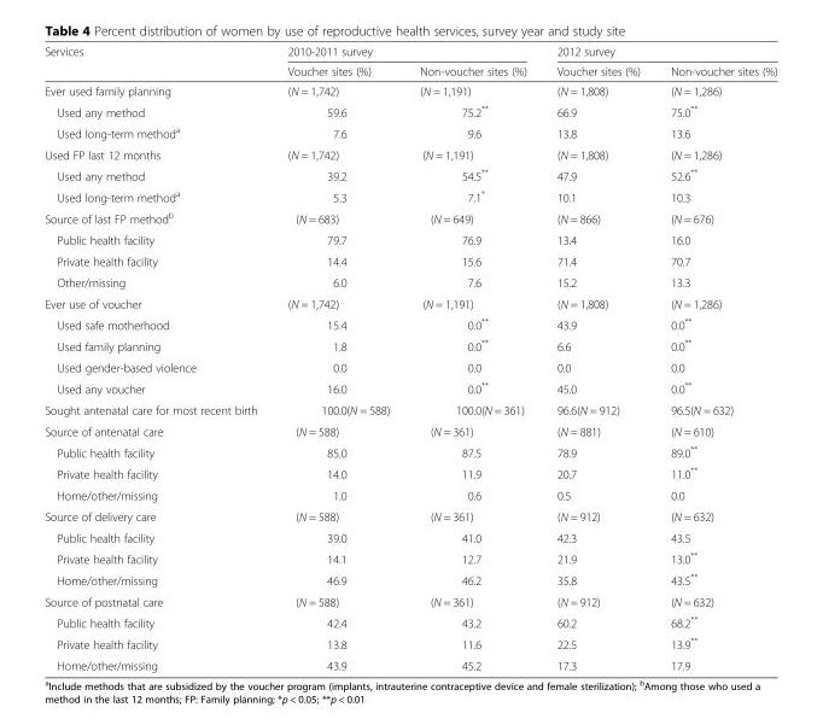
<table><thead><tr><td rowspan="2">Services</td><td colspan="2">2010-2011 survey</td><td colspan="2">2012 survey</td></tr><tr><td>Voucher sites (%)</td><td>Non-voucher sites (%)</td><td>Voucher sites (%)</td><td>Non-voucher sites (%)</td></tr></thead><tbody><tr><td>Ever used family planning</td><td>(N = 1,742)</td><td>(N = 1,191)</td><td>(N = 1,808)</td><td>(N = 1,286)</td></tr><tr><td>Used any method</td><td>59.6</td><td>75.2**</td><td>66.9</td><td>75.0**</td></tr><tr><td>Used long-term method<sup>a</sup></td><td>7.6</td><td>9.6</td><td>13.8</td><td>13.6</td></tr><tr><td>Used FP last 12 months</td><td>(N = 1,742)</td><td>(N = 1,191)</td><td>(N = 1,808)</td><td>(N = 1,286)</td></tr><tr><td>Used any method</td><td>39.2</td><td>54.5**</td><td>47.9</td><td>52.6**</td></tr><tr><td>Used long-term method<sup>a</sup></td><td>5.3</td><td>7.1*</td><td>10.1</td><td>10.3</td></tr><tr><td>Source of last FP method<sup>b</sup></td><td>(N = 683)</td><td>(N = 649)</td><td>(N = 866)</td><td>(N = 676)</td></tr><tr><td>Public health facility</td><td>79.7</td><td>76.9</td><td>13.4</td><td>16.0</td></tr><tr><td>Private health facility</td><td>14.4</td><td>15.6</td><td>71.4</td><td>70.7</td></tr><tr><td>Other/missing</td><td>6.0</td><td>7.6</td><td>15.2</td><td>13.3</td></tr><tr><td>Ever use of voucher</td><td>(N = 1,742)</td><td>(N = 1,191)</td><td>(N = 1,808)</td><td>(N = 1,286)</td></tr><tr><td>Used safe motherhood</td><td>15.4</td><td>0.0**</td><td>43.9</td><td>0.0**</td></tr><tr><td>Used family planning</td><td>1.8</td><td>0.0**</td><td>6.6</td><td>0.0**</td></tr><tr><td>Used gender-based violence</td><td>0.0</td><td>0.0</td><td>0.0</td><td>0.0</td></tr><tr><td>Used any voucher</td><td>16.0</td><td>0.0**</td><td>45.0</td><td>0.0**</td></tr><tr><td>Sought antenatal care for most recent birth</td><td>100.0(N = 588)</td><td>100.0(N = 361)</td><td>96.6(N = 912)</td><td>96.5(N = 632)</td></tr><tr><td>Source of antenatal care</td><td>(N = 588)</td><td>(N = 361)</td><td>(N = 881)</td><td>(N = 610)</td></tr><tr><td>Public health facility</td><td>85.0</td><td>87.5</td><td>78.9</td><td>89.0**</td></tr><tr><td>Private health facility</td><td>14.0</td><td>11.9</td><td>20.7</td><td>11.0**</td></tr><tr><td>Home/other/missing</td><td>1.0</td><td>0.6</td><td>0.5</td><td>0.0</td></tr><tr><td>Source of delivery care</td><td>(N = 588)</td><td>(N = 361)</td><td>(N = 912)</td><td>(N = 632)</td></tr><tr><td>Public health facility</td><td>39.0</td><td>41.0</td><td>42.3</td><td>43.5</td></tr><tr><td>Private health facility</td><td>14.1</td><td>12.7</td><td>21.9</td><td>13.0**</td></tr><tr><td>Home/other/missing</td><td>46.9</td><td>46.2</td><td>35.8</td><td>43.5**</td></tr><tr><td>Source of postnatal care</td><td>(N = 588)</td><td>(N = 361)</td><td>(N = 912)</td><td>(N = 632)</td></tr><tr><td>Public health facility</td><td>42.4</td><td>43.2</td><td>60.2</td><td>68.2**</td></tr><tr><td>Private health facility</td><td>13.8</td><td>11.6</td><td>22.5</td><td>13.9**</td></tr><tr><td>Home/other/missing</td><td>43.9</td><td>45.2</td><td>17.3</td><td>17.9</td></tr></tbody></table>